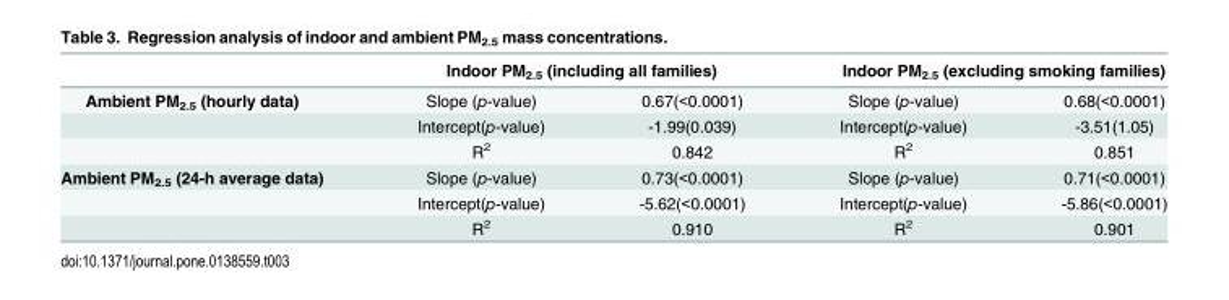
<table><thead><tr><td rowspan="2">Ambient PM<sub>2.5</sub> (hourly data)</td><td colspan="2">Indoor PM<sub>2.5</sub> (including all families)</td><td colspan="2">Indoor PM<sub>2.5</sub> (excluding smoking families)</td></tr><tr><td>Slope (p-value)</td><td>0.67(&lt;0.0001)</td><td>Slope (p-value)</td><td>0.68(&lt;0.0001)</td></tr></thead><tbody><tr><td></td><td>Intercept(p-value)</td><td>-1.99(0.039)</td><td>Intercept(p-value)</td><td>-3.51(1.05)</td></tr><tr><td></td><td>R<sup>2</sup></td><td>0.842</td><td>R<sup>2</sup></td><td>0.851</td></tr><tr><td rowspan="3">Ambient PM<sub>2.5</sub> (24-h average data)</td><td>Slope (p-value)</td><td>0.73(&lt;0.0001)</td><td>Slope (p-value)</td><td>0.71(&lt;0.0001)</td></tr><tr><td>Intercept(p-value)</td><td>-5.62(&lt;0.0001)</td><td>Intercept(p-value)</td><td>-5.86(&lt;0.0001)</td></tr><tr><td>R<sup>2</sup></td><td>0.910</td><td>R<sup>2</sup></td><td>0.901</td></tr></tbody></table>